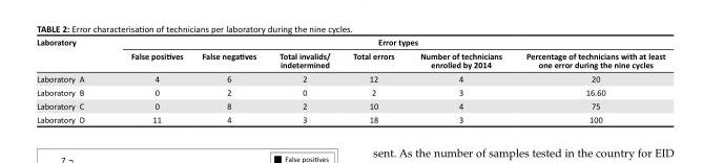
<table><thead><tr><td rowspan="2">Laboratory</td><td colspan="6">Error types</td></tr><tr><td>False positives</td><td>False negatives</td><td>Total invalids/ indetermined</td><td>Total errors</td><td>Number of technicians enrolled by 2014</td><td>Percentage of technicians with at least one error during the nine cycles</td></tr></thead><tbody><tr><td>Laboratory A</td><td>4</td><td>6</td><td>2</td><td>12</td><td>4</td><td>20</td></tr><tr><td>Laboratory B</td><td>0</td><td>2</td><td>0</td><td>2</td><td>3</td><td>16.60</td></tr><tr><td>Laboratory C</td><td>0</td><td>8</td><td>2</td><td>10</td><td>4</td><td>75</td></tr><tr><td>Laboratory D</td><td>11</td><td>4</td><td>3</td><td>18</td><td>3</td><td>100</td></tr></tbody></table>